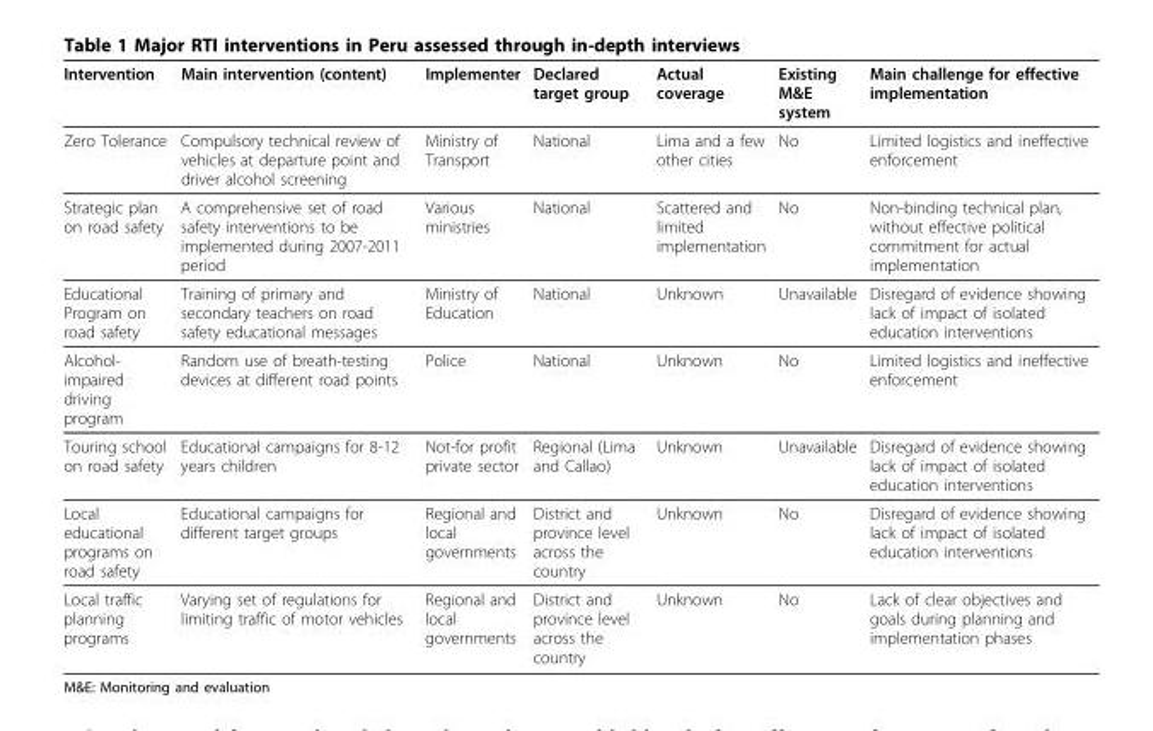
<table><thead><tr><td>Intervention</td><td>Main intervention (content)</td><td>Implementer</td><td>Declared target group</td><td>Actual coverage</td><td>Existing M&amp;E system</td><td>Main challenge for effective implementation</td></tr></thead><tbody><tr><td>Zero Tolerance</td><td>Compulsory technical review of vehicles at departure point and driver alcohol screening</td><td>Ministry of Transport</td><td>National</td><td>Lima and a few other cities</td><td>No</td><td>Limited logistics and ineffective enforcement</td></tr><tr><td>Strategic plan on road safety</td><td>A comprehensive set of road safety interventions to be implemented during 2007-2011 period</td><td>Various ministries</td><td>National</td><td>Scattered and limited implementation</td><td>No</td><td>Non-binding technical plan, without effective political commitment for actual implementation</td></tr><tr><td>Educational Program on road safety</td><td>Training of primary and secondary teachers on road safety educational messages</td><td>Ministry of Education</td><td>National</td><td>Unknown</td><td>Unavailable</td><td>Disregard of evidence showing lack of impact of isolated education interventions</td></tr><tr><td>Alcohol- impaired driving program</td><td>Random use of breath-testing devices at different road points</td><td>Police</td><td>National</td><td>Unknown</td><td>No</td><td>Limited logistics and ineffective enforcement</td></tr><tr><td>Touring school on road safety</td><td>Educational campaigns for 8-12 years children</td><td>Not-for profit private sector</td><td>Regional (Lima and Callao)</td><td>Unknown</td><td>Unavailable</td><td>Disregard of evidence showing lack of impact of isolated education interventions</td></tr><tr><td>Local educational programs on road safety</td><td>Educational campaigns for different target groups</td><td>Regional and local governments</td><td>District and province level across the country</td><td>Unknown</td><td>No</td><td>Disregard of evidence showing lack of impact of isolated education interventions</td></tr><tr><td>Local traffic planning programs</td><td>Varying set of regulations for limiting traffic of motor vehicles</td><td>Regional and local governments</td><td>District and province level across the country</td><td>Unknown</td><td>No</td><td>Lack of clear objectives and goals during planning and implementation phases</td></tr></tbody></table>